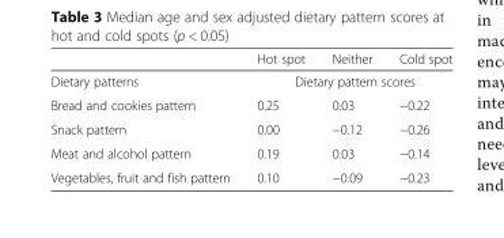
<table><thead><tr><td></td><td>Hot spot</td><td>Neither</td><td>Cold spot</td></tr></thead><tbody><tr><td>Dietary patterns</td><td colspan="3">Dietary pattern scores</td></tr><tr><td>Bread and cookies pattern</td><td>0.25</td><td>0.03</td><td>−0.22</td></tr><tr><td>Snack pattern</td><td>0.00</td><td>−0.12</td><td>−0.26</td></tr><tr><td>Meat and alcohol pattern</td><td>0.19</td><td>0.03</td><td>−0.14</td></tr><tr><td>Vegetables, fruit and fish pattern</td><td>0.10</td><td>−0.09</td><td>−0.23</td></tr></tbody></table>